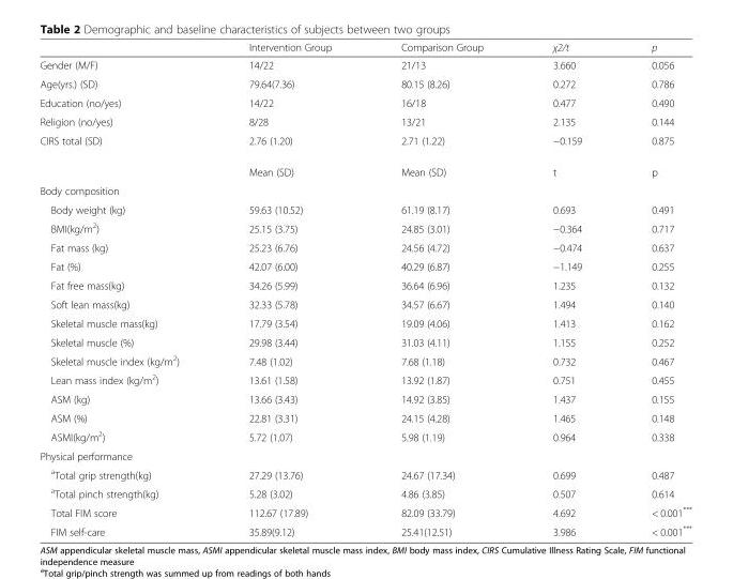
<table><thead><tr><td></td><td>Intervention Group</td><td>Comparison Group</td><td>χ2/t</td><td>p</td></tr></thead><tbody><tr><td>Gender (M/F)</td><td>14/22</td><td>21/13</td><td>3.660</td><td>0.056</td></tr><tr><td>Age(yrs.) (SD)</td><td>79.64(7.36)</td><td>80.15 (8.26)</td><td>0.272</td><td>0.786</td></tr><tr><td>Education (no/yes)</td><td>14/22</td><td>16/18</td><td>0.477</td><td>0.490</td></tr><tr><td>Religion (no/yes)</td><td>8/28</td><td>13/21</td><td>2.135</td><td>0.144</td></tr><tr><td rowspan="2">CIRS total (SD)</td><td>2.76 (1.20)</td><td>2.71 (1.22)</td><td>−0.159</td><td>0.875</td></tr><tr><td>Mean (SD)</td><td>Mean (SD)</td><td>t</td><td>p</td></tr><tr><td colspan="5">Body composition</td></tr><tr><td>Body weight (kg)</td><td>59.63 (10.52)</td><td>61.19 (8.17)</td><td>0.693</td><td>0.491</td></tr><tr><td>BMI(kg/m<sup>2</sup>)</td><td>25.15 (3.75)</td><td>24.85 (3.01)</td><td>−0.364</td><td>0.717</td></tr><tr><td>Fat mass (kg)</td><td>25.23 (6.76)</td><td>24.56 (4.72)</td><td>−0.474</td><td>0.637</td></tr><tr><td>Fat (%)</td><td>42.07 (6.00)</td><td>40.29 (6.87)</td><td>−1.149</td><td>0.255</td></tr><tr><td>Fat free mass(kg)</td><td>34.26 (5.99)</td><td>36.64 (6.96)</td><td>1.235</td><td>0.132</td></tr><tr><td>Soft lean mass(kg)</td><td>32.33 (5.78)</td><td>34.57 (6.67)</td><td>1.494</td><td>0.140</td></tr><tr><td>Skeletal muscle mass(kg)</td><td>17.79 (3.54)</td><td>19.09 (4.06)</td><td>1.413</td><td>0.162</td></tr><tr><td>Skeletal muscle (%)</td><td>29.98 (3.44)</td><td>31.03 (4.11)</td><td>1.155</td><td>0.252</td></tr><tr><td>Skeletal muscle index (kg/m<sup>2</sup>)</td><td>7.48 (1.02)</td><td>7.68 (1.18)</td><td>0.732</td><td>0.467</td></tr><tr><td>Lean mass index (kg/m<sup>2</sup>)</td><td>13.61 (1.58)</td><td>13.92 (1.87)</td><td>0.751</td><td>0.455</td></tr><tr><td>ASM (kg)</td><td>13.66 (3.43)</td><td>14.92 (3.85)</td><td>1.437</td><td>0.155</td></tr><tr><td>ASM (%)</td><td>22.81 (3.31)</td><td>24.15 (4.28)</td><td>1.465</td><td>0.148</td></tr><tr><td>ASMI(kg/m<sup>2</sup>)</td><td>5.72 (1.07)</td><td>5.98 (1.19)</td><td>0.964</td><td>0.338</td></tr><tr><td colspan="5">Physical performance</td></tr><tr><td><sup>a</sup>Total grip strength(kg)</td><td>27.29 (13.76)</td><td>24.67 (17.34)</td><td>0.699</td><td>0.487</td></tr><tr><td><sup>a</sup>Total pinch strength(kg)</td><td>5.28 (3.02)</td><td>4.86 (3.85)</td><td>0.507</td><td>0.614</td></tr><tr><td>Total FIM score</td><td>112.67 (17.89)</td><td>82.09 (33.79)</td><td>4.692</td><td>&lt; 0.001***</td></tr><tr><td>FIM self-care</td><td>35.89(9.12)</td><td>25.41(12.51)</td><td>3.986</td><td>&lt; 0.001***</td></tr></tbody></table>